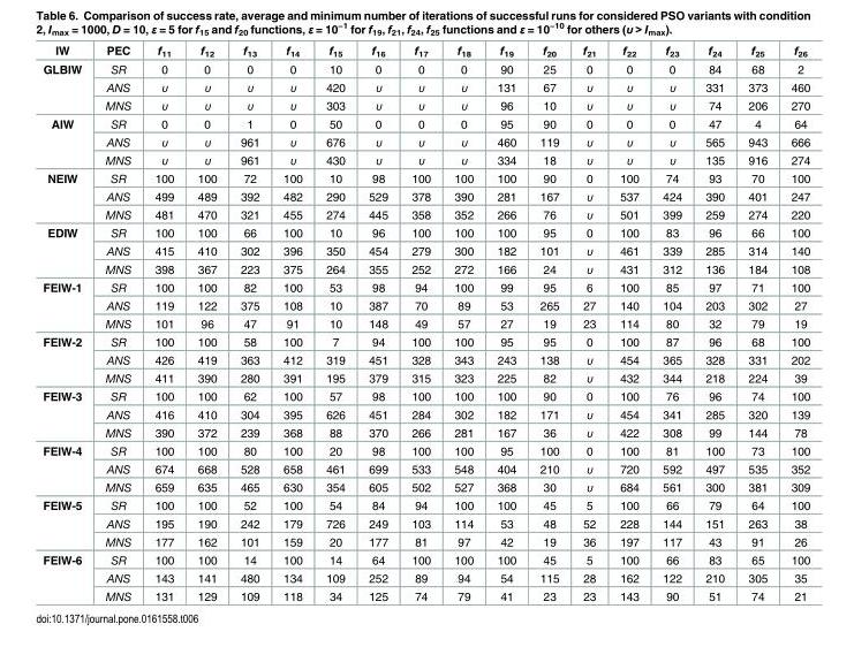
<table><thead><tr><td>IW</td><td>PEC</td><td>f<sub>11</sub></td><td>f<sub>12</sub></td><td>f<sub>13</sub></td><td>f<sub>14</sub></td><td>f<sub>15</sub></td><td>f<sub>16</sub></td><td>f<sub>17</sub></td><td>f<sub>18</sub></td><td>f<sub>19</sub></td><td>f<sub>20</sub></td><td>f<sub>21</sub></td><td>f<sub>22</sub></td><td>f<sub>23</sub></td><td>f<sub>24</sub></td><td>f<sub>25</sub></td><td>f<sub>26</sub></td></tr></thead><tbody><tr><td rowspan="3">GLBIW</td><td>SR</td><td>0</td><td>0</td><td>0</td><td>0</td><td>10</td><td>0</td><td>0</td><td>0</td><td>90</td><td>25</td><td>0</td><td>0</td><td>0</td><td>84</td><td>68</td><td>2</td></tr><tr><td>ANS</td><td>υ</td><td>υ</td><td>υ</td><td>υ</td><td>420</td><td>υ</td><td>υ</td><td>υ</td><td>131</td><td>67</td><td>υ</td><td>υ</td><td>υ</td><td>331</td><td>373</td><td>460</td></tr><tr><td>MNS</td><td>υ</td><td>υ</td><td>υ</td><td>υ</td><td>303</td><td>υ</td><td>υ</td><td>υ</td><td>96</td><td>10</td><td>υ</td><td>υ</td><td>υ</td><td>74</td><td>206</td><td>270</td></tr><tr><td rowspan="3">AIW</td><td>SR</td><td>0</td><td>0</td><td>1</td><td>0</td><td>50</td><td>0</td><td>0</td><td>0</td><td>95</td><td>90</td><td>0</td><td>0</td><td>0</td><td>47</td><td>4</td><td>64</td></tr><tr><td>ANS</td><td>υ</td><td>υ</td><td>961</td><td>υ</td><td>676</td><td>υ</td><td>υ</td><td>υ</td><td>460</td><td>119</td><td>υ</td><td>υ</td><td>υ</td><td>565</td><td>943</td><td>666</td></tr><tr><td>MNS</td><td>υ</td><td>υ</td><td>961</td><td>υ</td><td>430</td><td>υ</td><td>υ</td><td>υ</td><td>334</td><td>18</td><td>υ</td><td>υ</td><td>υ</td><td>135</td><td>916</td><td>274</td></tr><tr><td rowspan="3">NEIW</td><td>SR</td><td>100</td><td>100</td><td>72</td><td>100</td><td>10</td><td>98</td><td>100</td><td>100</td><td>100</td><td>90</td><td>0</td><td>100</td><td>74</td><td>93</td><td>70</td><td>100</td></tr><tr><td>ANS</td><td>499</td><td>489</td><td>392</td><td>482</td><td>290</td><td>529</td><td>378</td><td>390</td><td>281</td><td>167</td><td>υ</td><td>537</td><td>424</td><td>390</td><td>401</td><td>247</td></tr><tr><td>MNS</td><td>481</td><td>470</td><td>321</td><td>455</td><td>274</td><td>445</td><td>358</td><td>352</td><td>266</td><td>76</td><td>υ</td><td>501</td><td>399</td><td>259</td><td>274</td><td>220</td></tr><tr><td rowspan="3">EDIW</td><td>SR</td><td>100</td><td>100</td><td>66</td><td>100</td><td>10</td><td>96</td><td>100</td><td>100</td><td>100</td><td>95</td><td>0</td><td>100</td><td>83</td><td>96</td><td>66</td><td>100</td></tr><tr><td>ANS</td><td>415</td><td>410</td><td>302</td><td>396</td><td>350</td><td>454</td><td>279</td><td>300</td><td>182</td><td>101</td><td>υ</td><td>461</td><td>339</td><td>285</td><td>314</td><td>140</td></tr><tr><td>MNS</td><td>398</td><td>367</td><td>223</td><td>375</td><td>264</td><td>355</td><td>252</td><td>272</td><td>166</td><td>24</td><td>υ</td><td>431</td><td>312</td><td>136</td><td>184</td><td>108</td></tr><tr><td rowspan="3">FEIW-1</td><td>SR</td><td>100</td><td>100</td><td>82</td><td>100</td><td>53</td><td>98</td><td>94</td><td>100</td><td>99</td><td>95</td><td>6</td><td>100</td><td>85</td><td>97</td><td>71</td><td>100</td></tr><tr><td>ANS</td><td>119</td><td>122</td><td>375</td><td>108</td><td>10</td><td>387</td><td>70</td><td>89</td><td>53</td><td>265</td><td>27</td><td>140</td><td>104</td><td>203</td><td>302</td><td>27</td></tr><tr><td>MNS</td><td>101</td><td>96</td><td>47</td><td>91</td><td>10</td><td>148</td><td>49</td><td>57</td><td>27</td><td>19</td><td>23</td><td>114</td><td>80</td><td>32</td><td>79</td><td>19</td></tr><tr><td rowspan="3">FEIW-2</td><td>SR</td><td>100</td><td>100</td><td>58</td><td>100</td><td>7</td><td>94</td><td>100</td><td>100</td><td>95</td><td>95</td><td>0</td><td>100</td><td>87</td><td>96</td><td>68</td><td>100</td></tr><tr><td>ANS</td><td>426</td><td>419</td><td>363</td><td>412</td><td>319</td><td>451</td><td>328</td><td>343</td><td>243</td><td>138</td><td>υ</td><td>454</td><td>365</td><td>328</td><td>331</td><td>202</td></tr><tr><td>MNS</td><td>411</td><td>390</td><td>280</td><td>391</td><td>195</td><td>379</td><td>315</td><td>323</td><td>225</td><td>82</td><td>υ</td><td>432</td><td>344</td><td>218</td><td>224</td><td>39</td></tr><tr><td rowspan="3">FEIW-3</td><td>SR</td><td>100</td><td>100</td><td>62</td><td>100</td><td>57</td><td>98</td><td>100</td><td>100</td><td>100</td><td>90</td><td>0</td><td>100</td><td>76</td><td>96</td><td>74</td><td>100</td></tr><tr><td>ANS</td><td>416</td><td>410</td><td>304</td><td>395</td><td>626</td><td>451</td><td>284</td><td>302</td><td>182</td><td>171</td><td>υ</td><td>454</td><td>341</td><td>285</td><td>320</td><td>139</td></tr><tr><td>MNS</td><td>390</td><td>372</td><td>239</td><td>368</td><td>88</td><td>370</td><td>266</td><td>281</td><td>167</td><td>36</td><td>υ</td><td>422</td><td>308</td><td>99</td><td>144</td><td>78</td></tr><tr><td rowspan="3">FEIW-4</td><td>SR</td><td>100</td><td>100</td><td>80</td><td>100</td><td>20</td><td>98</td><td>100</td><td>100</td><td>95</td><td>100</td><td>0</td><td>100</td><td>81</td><td>100</td><td>73</td><td>100</td></tr><tr><td>ANS</td><td>674</td><td>668</td><td>528</td><td>658</td><td>461</td><td>699</td><td>533</td><td>548</td><td>404</td><td>210</td><td>υ</td><td>720</td><td>592</td><td>497</td><td>535</td><td>352</td></tr><tr><td>MNS</td><td>659</td><td>635</td><td>465</td><td>630</td><td>354</td><td>605</td><td>502</td><td>527</td><td>368</td><td>30</td><td>υ</td><td>684</td><td>561</td><td>300</td><td>381</td><td>309</td></tr><tr><td rowspan="3">FEIW-5</td><td>SR</td><td>100</td><td>100</td><td>52</td><td>100</td><td>54</td><td>84</td><td>94</td><td>100</td><td>100</td><td>45</td><td>5</td><td>100</td><td>66</td><td>79</td><td>64</td><td>100</td></tr><tr><td>ANS</td><td>195</td><td>190</td><td>242</td><td>179</td><td>726</td><td>249</td><td>103</td><td>114</td><td>53</td><td>48</td><td>52</td><td>228</td><td>144</td><td>151</td><td>263</td><td>38</td></tr><tr><td>MNS</td><td>177</td><td>162</td><td>101</td><td>159</td><td>20</td><td>177</td><td>81</td><td>97</td><td>42</td><td>19</td><td>36</td><td>197</td><td>117</td><td>43</td><td>91</td><td>26</td></tr><tr><td rowspan="3">FEIW-6</td><td>SR</td><td>100</td><td>100</td><td>14</td><td>100</td><td>14</td><td>64</td><td>100</td><td>100</td><td>100</td><td>45</td><td>5</td><td>100</td><td>66</td><td>83</td><td>65</td><td>100</td></tr><tr><td>ANS</td><td>143</td><td>141</td><td>480</td><td>134</td><td>109</td><td>252</td><td>89</td><td>94</td><td>54</td><td>115</td><td>28</td><td>162</td><td>122</td><td>210</td><td>305</td><td>35</td></tr><tr><td>MNS</td><td>131</td><td>129</td><td>109</td><td>118</td><td>34</td><td>125</td><td>74</td><td>79</td><td>41</td><td>23</td><td>23</td><td>143</td><td>90</td><td>51</td><td>74</td><td>21</td></tr></tbody></table>